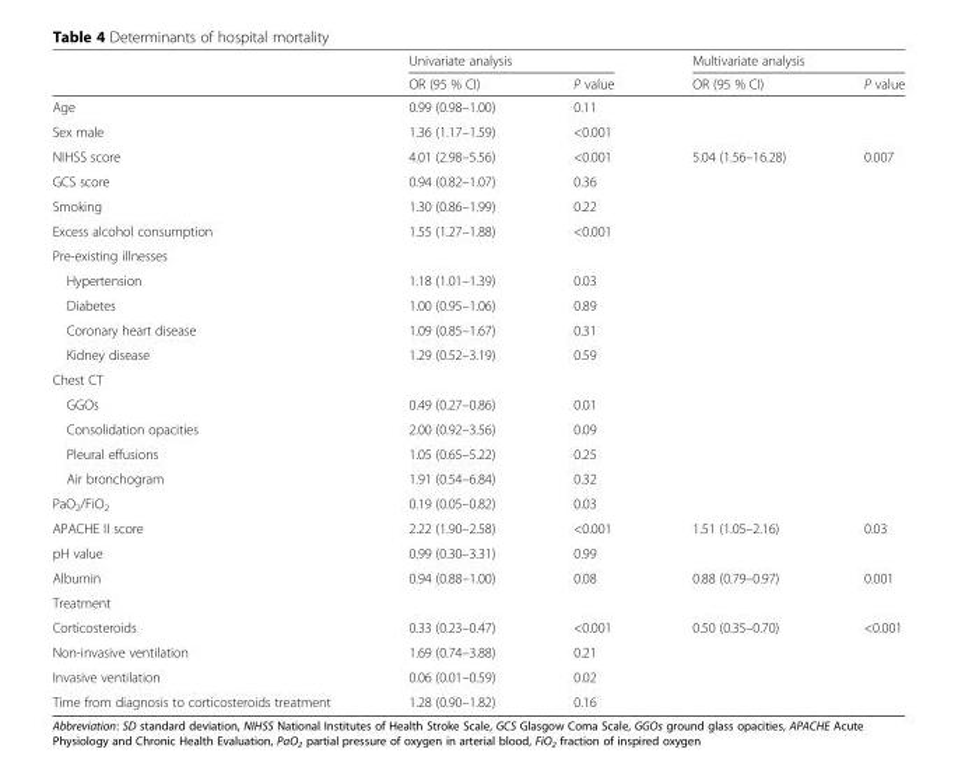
<table><thead><tr><td rowspan="2"></td><td colspan="2">Univariate analysis</td><td colspan="2">Multivariate analysis</td></tr><tr><td>OR (95 % CI)</td><td>P value</td><td>OR (95 % CI)</td><td>P value</td></tr></thead><tbody><tr><td>Age</td><td>0.99 (0.98–1.00)</td><td>0.11</td><td></td><td></td></tr><tr><td>Sex male</td><td>1.36 (1.17–1.59)</td><td>&lt;0.001</td><td></td><td></td></tr><tr><td>NIHSS score</td><td>4.01 (2.98–5.56)</td><td>&lt;0.001</td><td>5.04 (1.56–16.28)</td><td>0.007</td></tr><tr><td>GCS score</td><td>0.94 (0.82–1.07)</td><td>0.36</td><td></td><td></td></tr><tr><td>Smoking</td><td>1.30 (0.86–1.99)</td><td>0.22</td><td></td><td></td></tr><tr><td>Excess alcohol consumption</td><td>1.55 (1.27–1.88)</td><td>&lt;0.001</td><td></td><td></td></tr><tr><td colspan="5">Pre-existing illnesses</td></tr><tr><td>Hypertension</td><td>1.18 (1.01–1.39)</td><td>0.03</td><td></td><td></td></tr><tr><td>Diabetes</td><td>1.00 (0.95–1.06)</td><td>0.89</td><td></td><td></td></tr><tr><td>Coronary heart disease</td><td>1.09 (0.85–1.67)</td><td>0.31</td><td></td><td></td></tr><tr><td>Kidney disease</td><td>1.29 (0.52–3.19)</td><td>0.59</td><td></td><td></td></tr><tr><td colspan="5">Chest CT</td></tr><tr><td>GGOs</td><td>0.49 (0.27–0.86)</td><td>0.01</td><td></td><td></td></tr><tr><td>Consolidation opacities</td><td>2.00 (0.92–3.56)</td><td>0.09</td><td></td><td></td></tr><tr><td>Pleural effusions</td><td>1.05 (0.65–5.22)</td><td>0.25</td><td></td><td></td></tr><tr><td>Air bronchogram</td><td>1.91 (0.54–6.84)</td><td>0.32</td><td></td><td></td></tr><tr><td>PaO<sub>2</sub>/FiO<sub>2</sub></td><td>0.19 (0.05–0.82)</td><td>0.03</td><td></td><td></td></tr><tr><td>APACHE II score</td><td>2.22 (1.90–2.58)</td><td>&lt;0.001</td><td>1.51 (1.05–2.16)</td><td>0.03</td></tr><tr><td>pH value</td><td>0.99 (0.30–3.31)</td><td>0.99</td><td></td><td></td></tr><tr><td>Albumin</td><td>0.94 (0.88–1.00)</td><td>0.08</td><td>0.88 (0.79–0.97)</td><td>0.001</td></tr><tr><td colspan="5">Treatment</td></tr><tr><td>Corticosteroids</td><td>0.33 (0.23–0.47)</td><td>&lt;0.001</td><td>0.50 (0.35–0.70)</td><td>&lt;0.001</td></tr><tr><td>Non-invasive ventilation</td><td>1.69 (0.74–3.88)</td><td>0.21</td><td></td><td></td></tr><tr><td>Invasive ventilation</td><td>0.06 (0.01–0.59)</td><td>0.02</td><td></td><td></td></tr><tr><td>Time from diagnosis to corticosteroids treatment</td><td>1.28 (0.90–1.82)</td><td>0.16</td><td></td><td></td></tr></tbody></table>